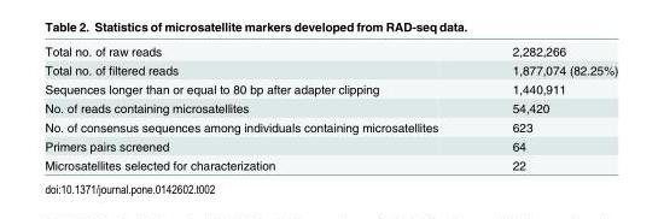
<table><tbody><tr><td>Total no. of raw reads</td><td>2,282,266</td></tr><tr><td>Total no. of filtered reads</td><td>1,877,074 (82.25%)</td></tr><tr><td>Sequences longer than or equal to 80 bp after adapter clipping</td><td>1,440,911</td></tr><tr><td>No. of reads containing microsatellites</td><td>54,420</td></tr><tr><td>No. of consensus sequences among individuals containing microsatellites</td><td>623</td></tr><tr><td>Primers pairs screened</td><td>64</td></tr><tr><td>Microsatellites selected for characterization</td><td>22</td></tr></tbody></table>